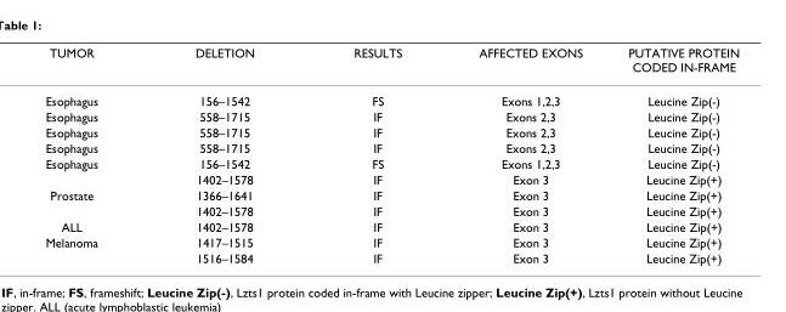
<table><thead><tr><td>TUMOR</td><td>DELETION</td><td>RESULTS</td><td>AFFECTED EXONS</td><td>PUTATIVE PROTEIN CODED IN-FRAME</td></tr></thead><tbody><tr><td>Esophagus</td><td>156–1542</td><td>FS</td><td>Exons 1,2,3</td><td>Leucine Zip(-)</td></tr><tr><td>Esophagus</td><td>558–1715</td><td>IF</td><td>Exons 2,3</td><td>Leucine Zip(-)</td></tr><tr><td>Esophagus</td><td>558–1715</td><td>IF</td><td>Exons 2,3</td><td>Leucine Zip(-)</td></tr><tr><td>Esophagus</td><td>558–1715</td><td>IF</td><td>Exons 2,3</td><td>Leucine Zip(-)</td></tr><tr><td rowspan="2">Esophagus</td><td>156–1542</td><td>FS</td><td>Exons 1,2,3</td><td>Leucine Zip(-)</td></tr><tr><td>1402–1578</td><td>IF</td><td>Exon 3</td><td>Leucine Zip(+)</td></tr><tr><td rowspan="2">Prostate</td><td>1366–1641</td><td>IF</td><td>Exon 3</td><td>Leucine Zip(+)</td></tr><tr><td>1402–1578</td><td>IF</td><td>Exon 3</td><td>Leucine Zip(+)</td></tr><tr><td>ALL</td><td>1402–1578</td><td>IF</td><td>Exon 3</td><td>Leucine Zip(+)</td></tr><tr><td rowspan="2">Melanoma</td><td>1417–1515</td><td>IF</td><td>Exon 3</td><td>Leucine Zip(+)</td></tr><tr><td>1516–1584</td><td>IF</td><td>Exon 3</td><td>Leucine Zip(+)</td></tr></tbody></table>